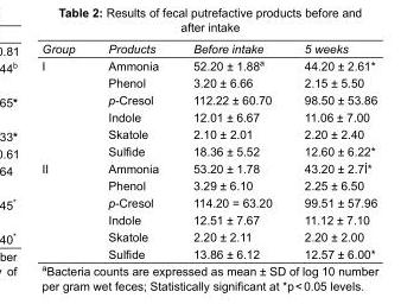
<table><tbody><tr><td>Group</td><td>Products</td><td>Before intake</td><td>5 weeks</td></tr><tr><td rowspan="6">I</td><td>Ammonia</td><td>52.20 ± 1.88<sup>a</sup></td><td>44.20 ± 2.61*</td></tr><tr><td>Phenol</td><td>3.20 ± 6.66</td><td>2.15 ± 5.50</td></tr><tr><td>p-Cresol</td><td>112.22 ± 60.70</td><td>98.50 ± 53.86</td></tr><tr><td>Indole</td><td>12.01 ± 6.67</td><td>11.06 ± 7.00</td></tr><tr><td>Skatole</td><td>2.10 ± 2.01</td><td>2.20 ± 2.40</td></tr><tr><td>Sulfide</td><td>18.36 ± 5.52</td><td>12.60 ± 6.22*</td></tr><tr><td rowspan="6">II</td><td>Ammonia</td><td>53.20 ± 1.78</td><td>43.20 ± 2.7Í*</td></tr><tr><td>Phenol</td><td>3.29 ± 6.10</td><td>2.25 ± 6.50</td></tr><tr><td>p-Cresol</td><td>114.20 = 63.20</td><td>99.51 ± 57.96</td></tr><tr><td>Indole</td><td>12.51 ± 7.67</td><td>11.12 ± 7.10</td></tr><tr><td>Skatole</td><td>2.20 ± 2.11</td><td>2.20 ± 2.00</td></tr><tr><td>Sulfide</td><td>13.86 ± 6.12</td><td>12.57 ± 6.00*</td></tr></tbody></table>